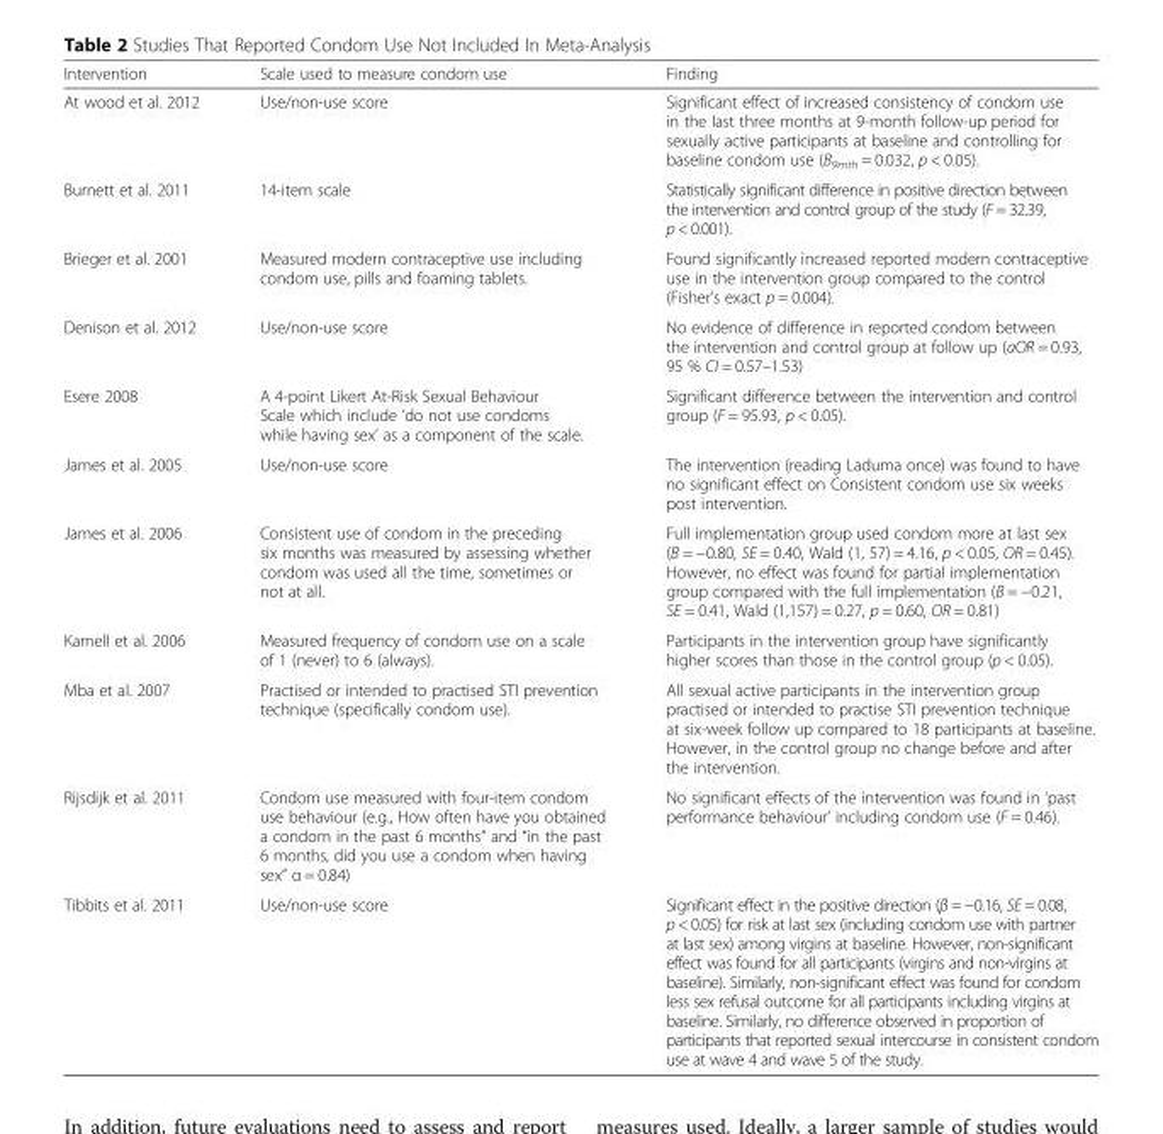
<table><thead><tr><td>Intervention</td><td>Scale used to measure condom use</td><td>Finding</td></tr></thead><tbody><tr><td>At wood et al. 2012</td><td>Use/non-use score</td><td>Significant effect of increased consistency of condom use in the last three months at 9-month follow-up period for sexually active participants at baseline and controlling for baseline condom use (B<sub>9mth</sub> = 0.032, p &lt; 0.05).</td></tr><tr><td>Burnett et al. 2011</td><td>14-item scale</td><td>Statistically significant difference in positive direction between the intervention and control group of the study (F = 32.39, p &lt; 0.001).</td></tr><tr><td>Brieger et al. 2001</td><td>Measured modern contraceptive use including condom use, pills and foaming tablets.</td><td>Found significantly increased reported modern contraceptive use in the intervention group compared to the control (Fisher’s exact p = 0.004).</td></tr><tr><td>Denison et al. 2012</td><td>Use/non-use score</td><td>No evidence of difference in reported condom between the intervention and control group at follow up (aOR = 0.93, 95 % CI = 0.57–1.53)</td></tr><tr><td>Esere 2008</td><td>A 4-point Likert At-Risk Sexual Behaviour Scale which include ‘do not use condoms while having sex’ as a component of the scale.</td><td>Significant difference between the intervention and control group (F = 95.93, p &lt; 0.05).</td></tr><tr><td>James et al. 2005</td><td>Use/non-use score</td><td>The intervention (reading Laduma once) was found to have no significant effect on Consistent condom use six weeks post intervention.</td></tr><tr><td>James et al. 2006</td><td>Consistent use of condom in the preceding six months was measured by assessing whether condom was used all the time, sometimes or not at all.</td><td>Full implementation group used condom more at last sex (B = −0.80, SE = 0.40, Wald (1, 57) = 4.16, p &lt; 0.05, OR = 0.45). However, no effect was found for partial implementation group compared with the full implementation (B = −0.21, SE = 0.41, Wald (1,157) = 0.27, p = 0.60, OR = 0.81)</td></tr><tr><td>Karnell et al. 2006</td><td>Measured frequency of condom use on a scale of 1 (never) to 6 (always).</td><td>Participants in the intervention group have significantly higher scores than those in the control group (p &lt; 0.05).</td></tr><tr><td>Mba et al. 2007</td><td>Practised or intended to practised STI prevention technique (specifically condom use).</td><td>All sexual active participants in the intervention group practised or intended to practise STI prevention technique at six-week follow up compared to 18 participants at baseline. However, in the control group no change before and after the intervention.</td></tr><tr><td>Rijsdijk et al. 2011</td><td>Condom use measured with four-item condom use behaviour (e.g., How often have you obtained a condom in the past 6 months” and “in the past 6 months, did you use a condom when having sex” α = 0.84)</td><td>No significant effects of the intervention was found in ‘past performance behaviour’ including condom use (F = 0.46).</td></tr><tr><td>Tibbits et al. 2011</td><td>Use/non-use score</td><td>Significant effect in the positive direction (β = −0.16, SE = 0.08, p &lt; 0.05) for risk at last sex (including condom use with partner at last sex) among virgins at baseline. However, non-significant effect was found for all participants (virgins and non-virgins at baseline). Similarly, non-significant effect was found for condom less sex refusal outcome for all participants including virgins at baseline. Similarly, no difference observed in proportion of participants that reported sexual intercourse in consistent condom use at wave 4 and wave 5 of the study.</td></tr></tbody></table>